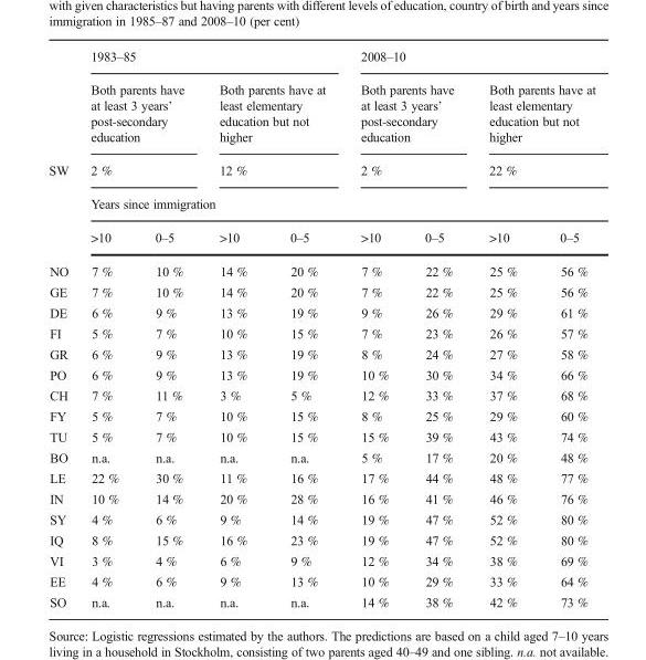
<table><thead><tr><td rowspan="5">SW</td><td colspan="4">1983–85</td><td colspan="4">2008–10</td></tr><tr><td rowspan="2" colspan="2">Both parents have at least 3 years’ post-secondary education 2 %</td><td rowspan="2" colspan="2">Both parents have at least elementary education but not higher 12 %</td><td rowspan="2" colspan="2">Both parents have at least 3 years’ post-secondary education 2 %</td><td rowspan="2" colspan="2">Both parents have at least elementary education but not higher 22 %</td></tr><tr></tr><tr><td colspan="8">Years since immigration</td></tr><tr><td>&gt;10</td><td>0–5</td><td>&gt;10</td><td>0–5</td><td>&gt;10</td><td>0–5</td><td>&gt;10</td><td>0–5</td></tr></thead><tbody><tr><td>NO</td><td>7 %</td><td>10 %</td><td>14 %</td><td>20 %</td><td>7 %</td><td>22 %</td><td>25 %</td><td>56 %</td></tr><tr><td>GE</td><td>7 %</td><td>10 %</td><td>14 %</td><td>20 %</td><td>7 %</td><td>22 %</td><td>25 %</td><td>56 %</td></tr><tr><td>DE</td><td>6 %</td><td>9 %</td><td>13 %</td><td>19 %</td><td>9 %</td><td>26 %</td><td>29 %</td><td>61 %</td></tr><tr><td>FI</td><td>5 %</td><td>7 %</td><td>10 %</td><td>15 %</td><td>7 %</td><td>23 %</td><td>26 %</td><td>57 %</td></tr><tr><td>GR</td><td>6 %</td><td>9 %</td><td>13 %</td><td>19 %</td><td>8 %</td><td>24 %</td><td>27 %</td><td>58 %</td></tr><tr><td>PO</td><td>6 %</td><td>9 %</td><td>13 %</td><td>19 %</td><td>10 %</td><td>30 %</td><td>34 %</td><td>66 %</td></tr><tr><td>CH</td><td>7 %</td><td>11 %</td><td>3 %</td><td>5 %</td><td>12 %</td><td>33 %</td><td>37 %</td><td>68 %</td></tr><tr><td>FY</td><td>5 %</td><td>7 %</td><td>10 %</td><td>15 %</td><td>8 %</td><td>25 %</td><td>29 %</td><td>60 %</td></tr><tr><td>TU</td><td>5 %</td><td>7 %</td><td>10 %</td><td>15 %</td><td>15 %</td><td>39 %</td><td>43 %</td><td>74 %</td></tr><tr><td>BO</td><td>n.a.</td><td>n.a.</td><td>n.a.</td><td>n.a.</td><td>5 %</td><td>17 %</td><td>20 %</td><td>48 %</td></tr><tr><td>LE</td><td>22 %</td><td>30 %</td><td>11 %</td><td>16 %</td><td>17 %</td><td>44 %</td><td>48 %</td><td>77 %</td></tr><tr><td>IN</td><td>10 %</td><td>14 %</td><td>20 %</td><td>28 %</td><td>16 %</td><td>41 %</td><td>46 %</td><td>76 %</td></tr><tr><td>SY</td><td>4 %</td><td>6 %</td><td>9 %</td><td>14 %</td><td>19 %</td><td>47 %</td><td>52 %</td><td>80 %</td></tr><tr><td>IQ</td><td>8 %</td><td>15 %</td><td>16 %</td><td>23 %</td><td>19 %</td><td>47 %</td><td>52 %</td><td>80 %</td></tr><tr><td>VI</td><td>3 %</td><td>4 %</td><td>6 %</td><td>9 %</td><td>12 %</td><td>34 %</td><td>38 %</td><td>69 %</td></tr><tr><td>EE</td><td>4 %</td><td>6 %</td><td>9 %</td><td>13 %</td><td>10 %</td><td>29 %</td><td>33 %</td><td>64 %</td></tr><tr><td>SO</td><td>n.a.</td><td>n.a.</td><td>n.a.</td><td>n.a.</td><td>14 %</td><td>38 %</td><td>42 %</td><td>73 %</td></tr></tbody></table>